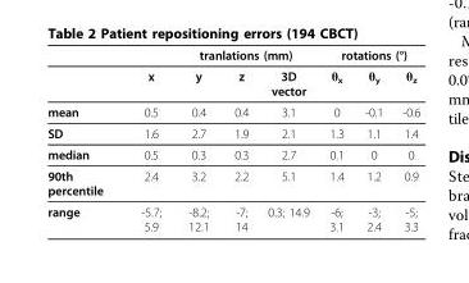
<table><thead><tr><td rowspan="2"></td><td rowspan="2">x</td><td colspan="3">tranlations (mm)</td><td colspan="3">rotations (°)</td></tr><tr><td>y</td><td>z</td><td>3D vector</td><td>θ<sub>x</sub></td><td>θ<sub>y</sub></td><td>θ<sub>z</sub></td></tr></thead><tbody><tr><td>mean</td><td>0.5</td><td>0.4</td><td>0.4</td><td>3.1</td><td>0</td><td>-0.1</td><td>-0.6</td></tr><tr><td>SD</td><td>1.6</td><td>2.7</td><td>1.9</td><td>2.1</td><td>1.3</td><td>1.1</td><td>1.4</td></tr><tr><td>median</td><td>0.5</td><td>0.3</td><td>0.3</td><td>2.7</td><td>0.1</td><td>0</td><td>0</td></tr><tr><td>90th percentile</td><td>2.4</td><td>3.2</td><td>2.2</td><td>5.1</td><td>1.4</td><td>1.2</td><td>0.9</td></tr><tr><td>range</td><td>-5.7; 5.9</td><td>-8.2; 12.1</td><td>-7; 14</td><td>0.3; 14.9</td><td>-6; 3.1</td><td>-3; 2.4</td><td>-5; 3.3</td></tr></tbody></table>